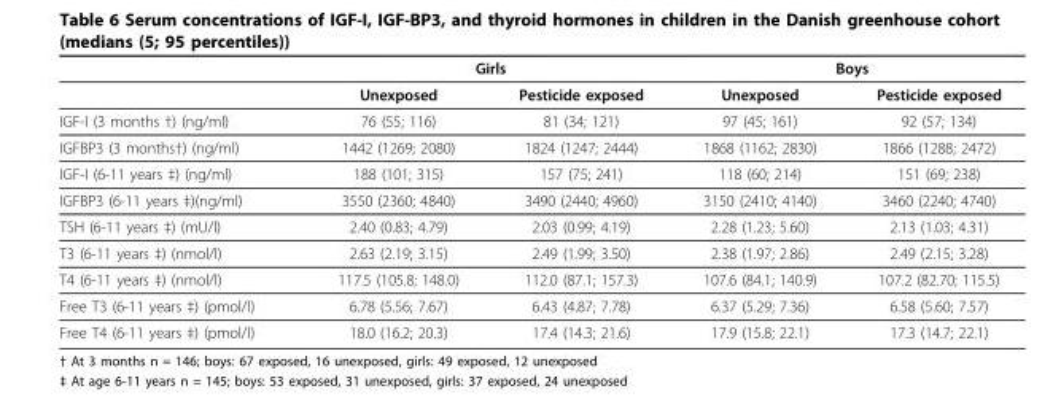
<table><thead><tr><td rowspan="2"></td><td colspan="2">Girls</td><td colspan="2">Boys</td></tr><tr><td>Unexposed</td><td>Pesticide exposed</td><td>Unexposed</td><td>Pesticide exposed</td></tr></thead><tbody><tr><td>IGF-I (3 months †) (ng/ml)</td><td>76 (55; 116)</td><td>81 (34; 121)</td><td>97 (45; 161)</td><td>92 (57; 134)</td></tr><tr><td>IGFBP3 (3 months†) (ng/ml)</td><td>1442 (1269; 2080)</td><td>1824 (1247; 2444)</td><td>1868 (1162; 2830)</td><td>1866 (1288; 2472)</td></tr><tr><td>IGF-I (6-11 years ‡) (ng/ml)</td><td>188 (101; 315)</td><td>157 (75; 241)</td><td>118 (60; 214)</td><td>151 (69; 238)</td></tr><tr><td>IGFBP3 (6-11 years ‡)(ng/ml)</td><td>3550 (2360; 4840)</td><td>3490 (2440; 4960)</td><td>3150 (2410; 4140)</td><td>3460 (2240; 4740)</td></tr><tr><td>TSH (6-11 years ‡) (mU/l)</td><td>2.40 (0.83; 4.79)</td><td>2.03 (0.99; 4.19)</td><td>2.28 (1.23; 5.60)</td><td>2.13 (1.03; 4.31)</td></tr><tr><td>T3 (6-11 years ‡) (nmol/l)</td><td>2.63 (2.19; 3.15)</td><td>2.49 (1.99; 3.50)</td><td>2.38 (1.97; 2.86)</td><td>2.49 (2.15; 3.28)</td></tr><tr><td>T4 (6-11 years ‡) (nmol/l)</td><td>117.5 (105.8; 148.0)</td><td>112.0 (87.1; 157.3)</td><td>107.6 (84.1; 140.9)</td><td>107.2 (82.70; 115.5)</td></tr><tr><td>Free T3 (6-11 years ‡) (pmol/l)</td><td>6.78 (5.56; 7.67)</td><td>6.43 (4.87; 7.78)</td><td>6.37 (5.29; 7.36)</td><td>6.58 (5.60; 7.57)</td></tr><tr><td>Free T4 (6-11 years ‡) (pmol/l)</td><td>18.0 (16.2; 20.3)</td><td>17.4 (14.3; 21.6)</td><td>17.9 (15.8; 22.1)</td><td>17.3 (14.7; 22.1)</td></tr></tbody></table>